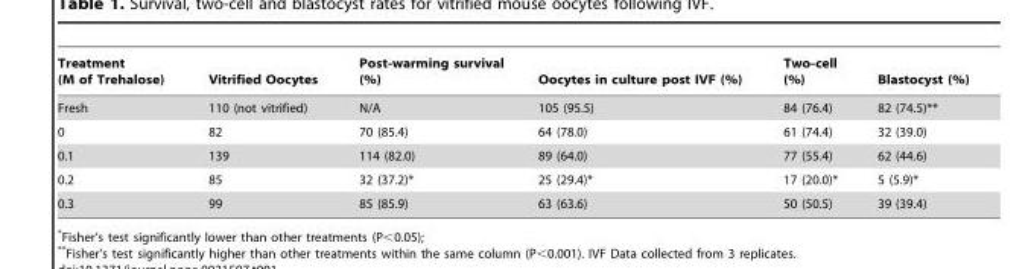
<table><thead><tr><td>Treatment (M of Trehalose)</td><td>Vitrified Oocytes</td><td>Post-warming survival (%)</td><td>Oocytes in culture post IVF (%)</td><td>Two-cell (%)</td><td>Blastocyst (%)</td></tr></thead><tbody><tr><td>Fresh</td><td>110 (not vitrified)</td><td>N/A</td><td>105 (95.5)</td><td>84 (76.4)</td><td>82 (74.5)**</td></tr><tr><td>0</td><td>82</td><td>70 (85.4)</td><td>64 (78.0)</td><td>61 (74.4)</td><td>32 (39.0)</td></tr><tr><td>0.1</td><td>139</td><td>114 (82.0)</td><td>89 (64.0)</td><td>77 (55.4)</td><td>62 (44.6)</td></tr><tr><td>0.2</td><td>85</td><td>32 (37.2)*</td><td>25 (29.4)*</td><td>17 (20.0)*</td><td>5 (5.9)*</td></tr><tr><td>0.3</td><td>99</td><td>85 (85.9)</td><td>63 (63.6)</td><td>50 (50.5)</td><td>39 (39.4)</td></tr></tbody></table>